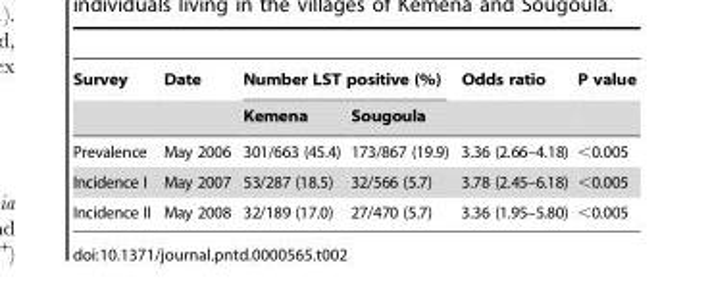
<table><thead><tr><td rowspan="2">Survey</td><td rowspan="2">Date</td><td colspan="2">Number LST positive (%)</td><td rowspan="2">Odds ratio</td><td rowspan="2">P value</td></tr><tr><td>Kemena</td><td>Sougoula</td></tr></thead><tbody><tr><td>Prevalence</td><td>May 2006</td><td>301/663 (45.4)</td><td>173/867 (19.9)</td><td>3.36 (2.66–4.18)</td><td>&lt;0.005</td></tr><tr><td>Incidence I</td><td>May 2007</td><td>53/287 (18.5)</td><td>32/566 (5.7)</td><td>3.78 (2.45–6.18)</td><td>&lt;0.005</td></tr><tr><td>Incidence II</td><td>May 2008</td><td>32/189 (17.0)</td><td>27/470 (5.7)</td><td>3.36 (1.95–5.80)</td><td>&lt;0.005</td></tr></tbody></table>